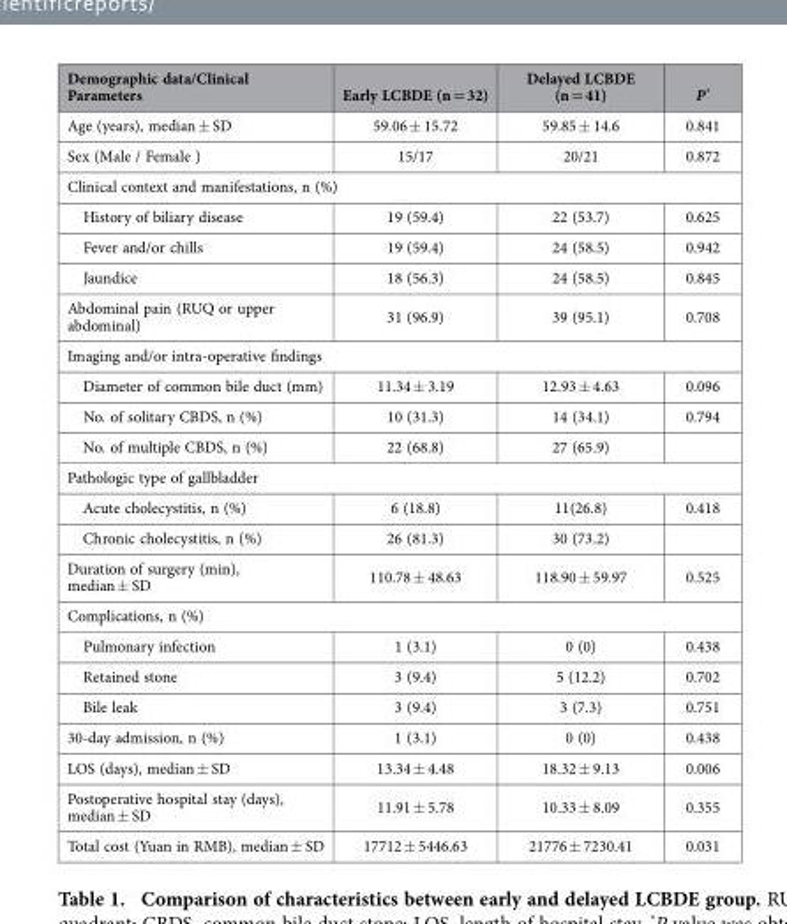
<table><thead><tr><td>Demographic data/Clinical Parameters</td><td>Early LCBDE (n = 32)</td><td>Delayed LCBDE (n = 41)</td><td>P*</td></tr></thead><tbody><tr><td>Age (years), median ± SD</td><td>59.06 ± 15.72</td><td>59.85 ± 14.6</td><td>0.841</td></tr><tr><td>Sex (Male / Female )</td><td>15/17</td><td>20/21</td><td>0.872</td></tr><tr><td colspan="4">Clinical context and manifestations, n (%)</td></tr><tr><td>History of biliary disease</td><td>19 (59.4)</td><td>22 (53.7)</td><td>0.625</td></tr><tr><td>Fever and/or chills</td><td>19 (59.4)</td><td>24 (58.5)</td><td>0.942</td></tr><tr><td>Jaundice</td><td>18 (56.3)</td><td>24 (58.5)</td><td>0.845</td></tr><tr><td>Abdominal pain (RUQ or upper abdominal)</td><td>31 (96.9)</td><td>39 (95.1)</td><td>0.708</td></tr><tr><td colspan="4">Imaging and/or intra-operative findings</td></tr><tr><td>Diameter of common bile duct (mm)</td><td>11.34 ± 3.19</td><td>12.93 ± 4.63</td><td>0.096</td></tr><tr><td>No. of solitary CBDS, n (%)</td><td>10 (31.3)</td><td>14 (34.1)</td><td>0.794</td></tr><tr><td>No. of multiple CBDS, n (%)</td><td>22 (68.8)</td><td>27 (65.9)</td><td></td></tr><tr><td colspan="4">Pathologic type of gallbladder</td></tr><tr><td>Acute cholecystitis, n (%)</td><td>6 (18.8)</td><td>11(26.8)</td><td>0.418</td></tr><tr><td>Chronic cholecystitis, n (%)</td><td>26 (81.3)</td><td>30 (73.2)</td><td></td></tr><tr><td>Duration of surgery (min), median ± SD</td><td>110.78 ± 48.63</td><td>118.90 ± 59.97</td><td>0.525</td></tr><tr><td colspan="4">Complications, n (%)</td></tr><tr><td>Pulmonary infection</td><td>1 (3.1)</td><td>0 (0)</td><td>0.438</td></tr><tr><td>Retained stone</td><td>3 (9.4)</td><td>5 (12.2)</td><td>0.702</td></tr><tr><td>Bile leak</td><td>3 (9.4)</td><td>3 (7.3)</td><td>0.751</td></tr><tr><td>30-day admission, n (%)</td><td>1 (3.1)</td><td>0 (0)</td><td>0.438</td></tr><tr><td>LOS (days), median ± SD</td><td>13.34 ± 4.48</td><td>18.32 ± 9.13</td><td>0.006</td></tr><tr><td>Postoperative hospital stay (days), median ± SD</td><td>11.91 ± 5.78</td><td>10.33 ± 8.09</td><td>0.355</td></tr><tr><td>Total cost (Yuan in RMB), median ± SD</td><td>17712 ± 5446.63</td><td>21776 ± 7230.41</td><td>0.031</td></tr></tbody></table>